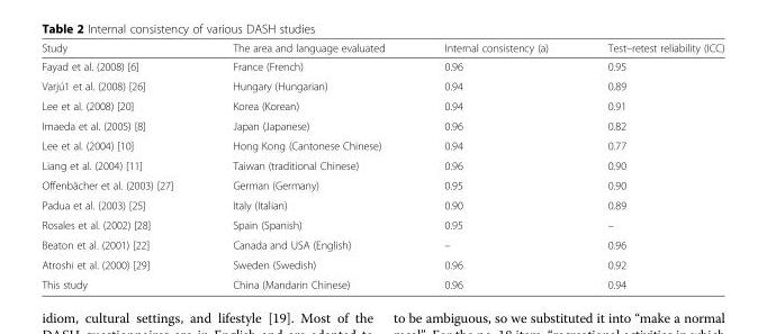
<table><thead><tr><td>Study</td><td>The area and language evaluated</td><td>Internal consistency (a)</td><td>Test–retest reliability (ICC)</td></tr></thead><tbody><tr><td>Fayad et al. (2008) [6]</td><td>France (French)</td><td>0.96</td><td>0.95</td></tr><tr><td>Varjú1 et al. (2008) [26]</td><td>Hungary (Hungarian)</td><td>0.94</td><td>0.89</td></tr><tr><td>Lee et al. (2008) [20]</td><td>Korea (Korean)</td><td>0.94</td><td>0.91</td></tr><tr><td>Imaeda et al. (2005) [8]</td><td>Japan (Japanese)</td><td>0.96</td><td>0.82</td></tr><tr><td>Lee et al. (2004) [10]</td><td>Hong Kong (Cantonese Chinese)</td><td>0.94</td><td>0.77</td></tr><tr><td>Liang et al. (2004) [11]</td><td>Taiwan (traditional Chinese)</td><td>0.96</td><td>0.90</td></tr><tr><td>Offenbächer et al. (2003) [27]</td><td>German (Germany)</td><td>0.95</td><td>0.90</td></tr><tr><td>Padua et al. (2003) [25]</td><td>Italy (Italian)</td><td>0.90</td><td>0.89</td></tr><tr><td>Rosales et al. (2002) [28]</td><td>Spain (Spanish)</td><td>0.95</td><td>–</td></tr><tr><td>Beaton et al. (2001) [22]</td><td>Canada and USA (English)</td><td>–</td><td>0.96</td></tr><tr><td>Atroshi et al. (2000) [29]</td><td>Sweden (Swedish)</td><td>0.96</td><td>0.92</td></tr><tr><td>This study</td><td>China (Mandarin Chinese)</td><td>0.96</td><td>0.94</td></tr></tbody></table>